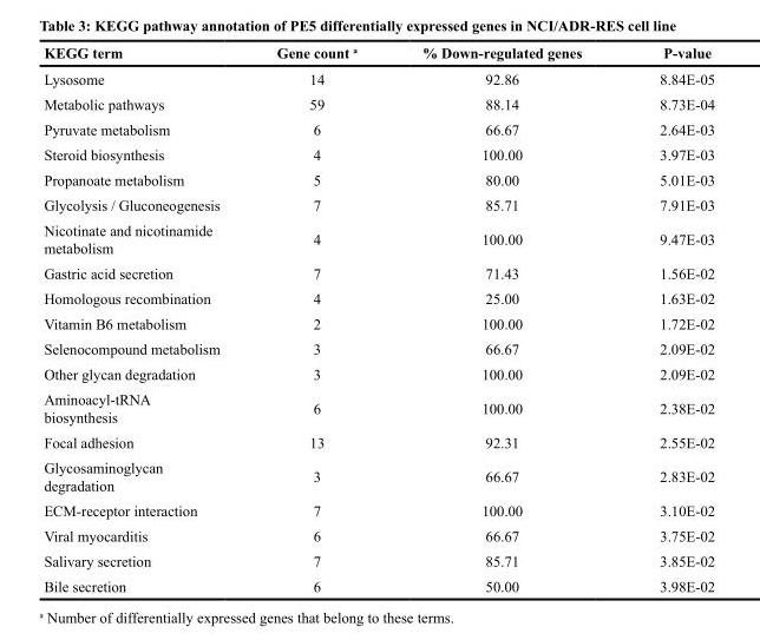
<table><thead><tr><td>KEGG term</td><td>Gene count <sup>a</sup></td><td>% Down-regulated genes</td><td>P-value</td></tr></thead><tbody><tr><td>Lysosome</td><td>14</td><td>92.86</td><td>8.84E-05</td></tr><tr><td>Metabolic pathways</td><td>59</td><td>88.14</td><td>8.73E-04</td></tr><tr><td>Pyruvate metabolism</td><td>6</td><td>66.67</td><td>2.64E-03</td></tr><tr><td>Steroid biosynthesis</td><td>4</td><td>100.00</td><td>3.97E-03</td></tr><tr><td>Propanoate metabolism</td><td>5</td><td>80.00</td><td>5.01E-03</td></tr><tr><td>Glycolysis / Gluconeogenesis</td><td>7</td><td>85.71</td><td>7.91E-03</td></tr><tr><td>Nicotinate and nicotinamide metabolism</td><td>4</td><td>100.00</td><td>9.47E-03</td></tr><tr><td>Gastric acid secretion</td><td>7</td><td>71.43</td><td>1.56E-02</td></tr><tr><td>Homologous recombination</td><td>4</td><td>25.00</td><td>1.63E-02</td></tr><tr><td>Vitamin B6 metabolism</td><td>2</td><td>100.00</td><td>1.72E-02</td></tr><tr><td>Selenocompound metabolism</td><td>3</td><td>66.67</td><td>2.09E-02</td></tr><tr><td>Other glycan degradation</td><td>3</td><td>100.00</td><td>2.09E-02</td></tr><tr><td>Aminoacyl-tRNA biosynthesis</td><td>6</td><td>100.00</td><td>2.38E-02</td></tr><tr><td>Focal adhesion</td><td>13</td><td>92.31</td><td>2.55E-02</td></tr><tr><td>Glycosaminoglycan degradation</td><td>3</td><td>66.67</td><td>2.83E-02</td></tr><tr><td>ECM-receptor interaction</td><td>7</td><td>100.00</td><td>3.10E-02</td></tr><tr><td>Viral myocarditis</td><td>6</td><td>66.67</td><td>3.75E-02</td></tr><tr><td>Salivary secretion</td><td>7</td><td>85.71</td><td>3.85E-02</td></tr><tr><td>Bile secretion</td><td>6</td><td>50.00</td><td>3.98E-02</td></tr></tbody></table>